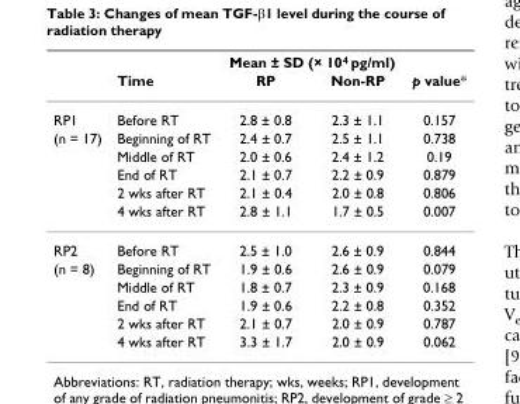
<table><thead><tr><td rowspan="2"></td><td rowspan="2">Time</td><td colspan="2">Mean ± SD (× 10<sup>4</sup> pg/ml)</td><td rowspan="2">p value*</td></tr><tr><td>RP</td><td>Non-RP</td></tr></thead><tbody><tr><td>RP1</td><td>Before RT</td><td>2.8 ± 0.8</td><td>2.3 ± 1.1</td><td>0.157</td></tr><tr><td rowspan="5">(n = 17)</td><td>Beginning of RT</td><td>2.4 ± 0.7</td><td>2.5 ± 1.1</td><td>0.738</td></tr><tr><td>Middle of RT</td><td>2.0 ± 0.6</td><td>2.4 ± 1.2</td><td>0.19</td></tr><tr><td>End of RT</td><td>2.1 ± 0.7</td><td>2.2 ± 0.9</td><td>0.879</td></tr><tr><td>2 wks after RT</td><td>2.1 ± 0.4</td><td>2.0 ± 0.8</td><td>0.806</td></tr><tr><td>4 wks after RT</td><td>2.8 ± 1.1</td><td>1.7 ± 0.5</td><td>0.007</td></tr><tr><td>RP2</td><td>Before RT</td><td>2.5 ± 1.0</td><td>2.6 ± 0.9</td><td>0.844</td></tr><tr><td rowspan="5">(n = 8)</td><td>Beginning of RT</td><td>1.9 ± 0.6</td><td>2.6 ± 0.9</td><td>0.079</td></tr><tr><td>Middle of RT</td><td>1.8 ± 0.7</td><td>2.3 ± 0.9</td><td>0.168</td></tr><tr><td>End of RT</td><td>1.9 ± 0.6</td><td>2.2 ± 0.8</td><td>0.352</td></tr><tr><td>2 wks after RT</td><td>2.1 ± 0.7</td><td>2.0 ± 0.9</td><td>0.787</td></tr><tr><td>4 wks after RT</td><td>3.3 ± 1.7</td><td>2.0 ± 0.9</td><td>0.062</td></tr></tbody></table>